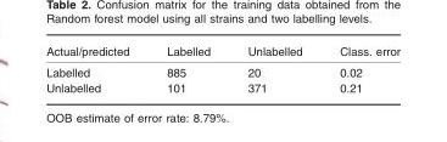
<table><thead><tr><td>Actual/predicted</td><td>Labelled</td><td>Unlabelled</td><td>Class. error</td></tr></thead><tbody><tr><td>Labelled</td><td>885</td><td>20</td><td>0.02</td></tr><tr><td>Unlabelled</td><td>101</td><td>371</td><td>0.21</td></tr></tbody></table>